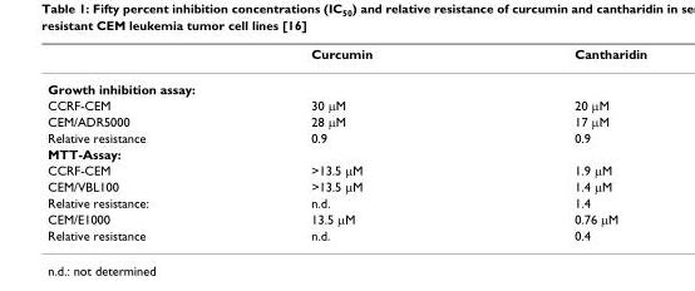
<table><thead><tr><td></td><td>Curcumin</td><td>Cantharidin</td></tr></thead><tbody><tr><td colspan="3">Growth inhibition assay:</td></tr><tr><td>CCRF-CEM</td><td>30 μM</td><td>20 μM</td></tr><tr><td>CEM/ADR5000</td><td>28 μM</td><td>17 μM</td></tr><tr><td>Relative resistance</td><td>0.9</td><td>0.9</td></tr><tr><td colspan="3">MTT-Assay:</td></tr><tr><td>CCRF-CEM</td><td>&gt;13.5 μM</td><td>1.9 μM</td></tr><tr><td>CEM/VBL100</td><td>&gt;13.5 μM</td><td>1.4 μM</td></tr><tr><td>Relative resistance:</td><td>n.d.</td><td>1.4</td></tr><tr><td>CEM/E1000</td><td>13.5 μM</td><td>0.76 μM</td></tr><tr><td>Relative resistance</td><td>n.d.</td><td>0.4</td></tr></tbody></table>